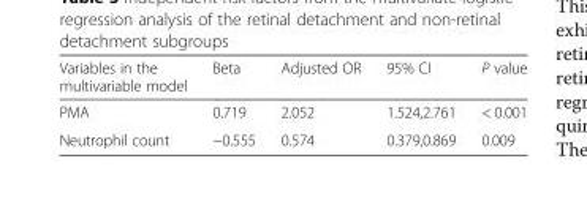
<table><thead><tr><td>Variables in the multivariable model</td><td>Beta</td><td>Adjusted OR</td><td>95% CI</td><td>P value</td></tr></thead><tbody><tr><td>PMA</td><td>0.719</td><td>2.052</td><td>1.524,2.761</td><td>&lt; 0.001</td></tr><tr><td>Neutrophil count</td><td>−0.555</td><td>0.574</td><td>0.379,0.869</td><td>0.009</td></tr></tbody></table>